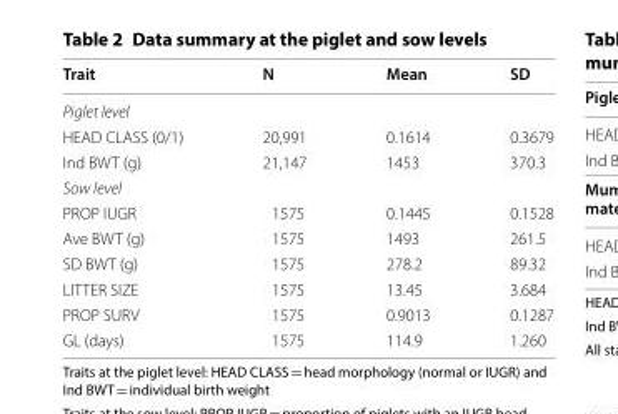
<table><thead><tr><td>Trait</td><td>N</td><td>Mean</td><td>SD</td></tr></thead><tbody><tr><td colspan="4">Piglet level</td></tr><tr><td>HEAD CLASS (0/1)</td><td>20,991</td><td>0.1614</td><td>0.3679</td></tr><tr><td>Ind BWT (g)</td><td>21,147</td><td>1453</td><td>370.3</td></tr><tr><td colspan="4">Sow level</td></tr><tr><td>PROP IUGR</td><td>1575</td><td>0.1445</td><td>0.1528</td></tr><tr><td>Ave BWT (g)</td><td>1575</td><td>1493</td><td>261.5</td></tr><tr><td>SD BWT (g)</td><td>1575</td><td>278.2</td><td>89.32</td></tr><tr><td>LITTER SIZE</td><td>1575</td><td>13.45</td><td>3.684</td></tr><tr><td>PROP SURV</td><td>1575</td><td>0.9013</td><td>0.1287</td></tr><tr><td>GL (days)</td><td>1575</td><td>114.9</td><td>1.260</td></tr></tbody></table>